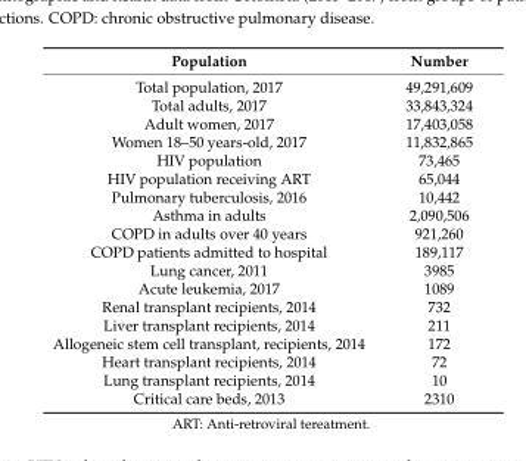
<table><thead><tr><td>Population</td><td>Number</td></tr></thead><tbody><tr><td>Total population, 2017</td><td>49,291,609</td></tr><tr><td>Total adults, 2017</td><td>33,843,324</td></tr><tr><td>Adult women, 2017</td><td>17,403,058</td></tr><tr><td>Women 18–50 years-old, 2017</td><td>11,832,865</td></tr><tr><td>HIV population</td><td>73,465</td></tr><tr><td>HIV population receiving ART</td><td>65,044</td></tr><tr><td>Pulmonary tuberculosis, 2016</td><td>10,442</td></tr><tr><td>Asthma in adults</td><td>2,090,506</td></tr><tr><td>COPD in adults over 40 years</td><td>921,260</td></tr><tr><td>COPD patients admitted to hospital</td><td>189,117</td></tr><tr><td>Lung cancer, 2011</td><td>3985</td></tr><tr><td>Acute leukemia, 2017</td><td>1089</td></tr><tr><td>Renal transplant recipients, 2014</td><td>732</td></tr><tr><td>Liver transplant recipients, 2014</td><td>211</td></tr><tr><td>Allogeneic stem cell transplant, recipients, 2014</td><td>172</td></tr><tr><td>Heart transplant recipients, 2014</td><td>72</td></tr><tr><td>Lung transplant recipients, 2014</td><td>10</td></tr><tr><td>Critical care beds, 2013</td><td>2310</td></tr></tbody></table>